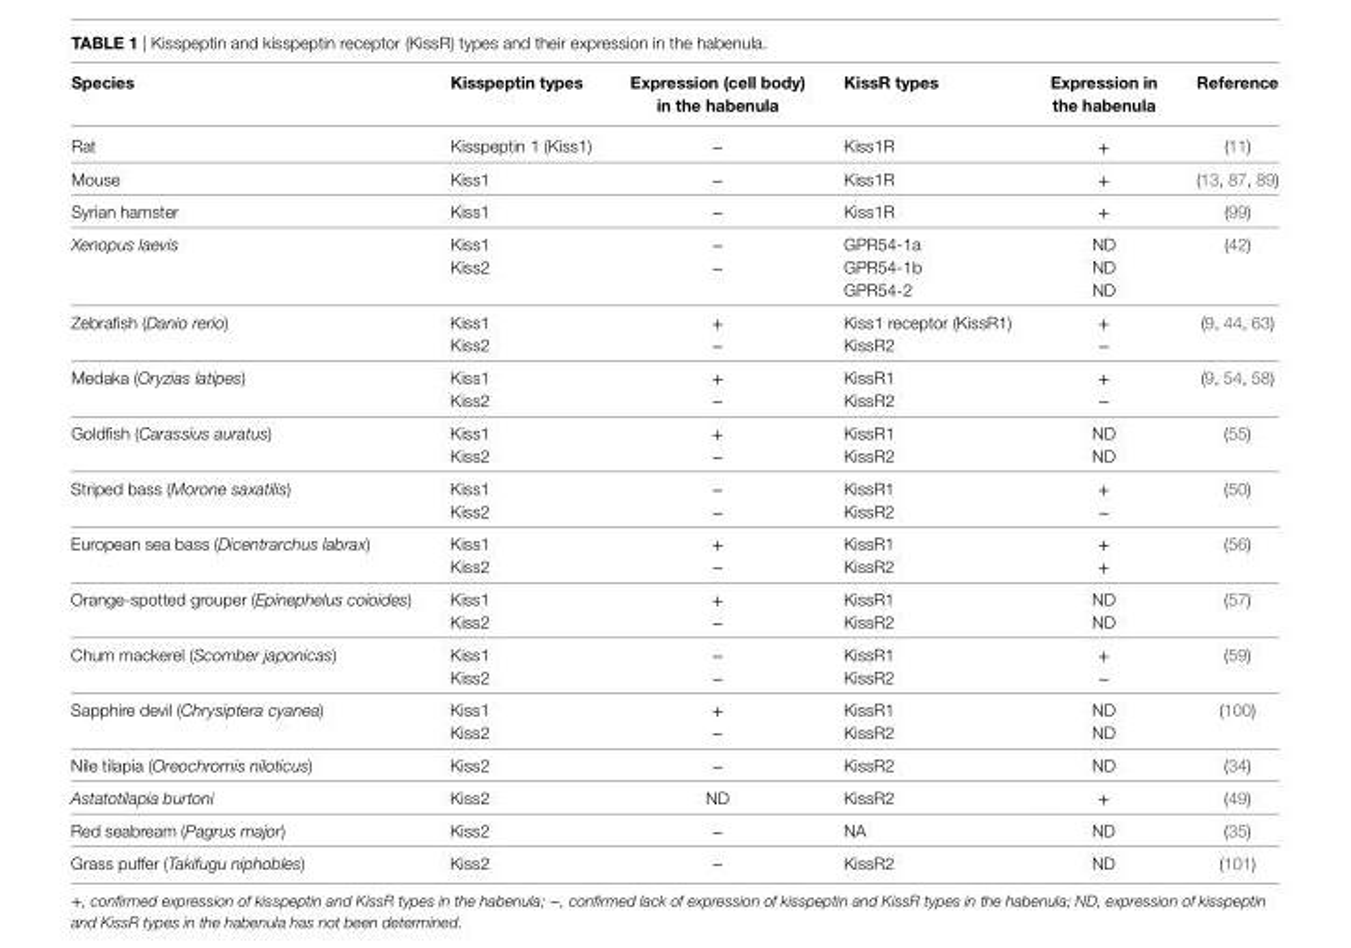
<table><thead><tr><td>Species</td><td>Kisspeptin types</td><td>expression (cell body) in the habenula</td><td>KissR types</td><td>expression in the habenula</td><td>Reference</td></tr></thead><tbody><tr><td>Rat</td><td>Kisspeptin 1 (Kiss1)</td><td>−</td><td>Kiss1R</td><td>+</td><td>(11)</td></tr><tr><td>Mouse</td><td>Kiss1</td><td>−</td><td>Kiss1R</td><td>+</td><td>(13, 87, 89)</td></tr><tr><td>Syrian hamster</td><td>Kiss1</td><td>−</td><td>Kiss1R</td><td>+</td><td>(99)</td></tr><tr><td>Xenopus laevis</td><td>Kiss1 Kiss2</td><td>− −</td><td>GPR541a GPR541b GPR542</td><td>ND ND ND</td><td>(42)</td></tr><tr><td>Zebrafish (Danio rerio)</td><td>Kiss1 Kiss2</td><td>+ −</td><td>Kiss1 receptor (KissR1) KissR2</td><td>+ −</td><td>(9, 44, 63)</td></tr><tr><td>Medaka (Oryzias latipes)</td><td>Kiss1 Kiss2</td><td>+ −</td><td>KissR1 KissR2</td><td>+ −</td><td>(9, 54, 58)</td></tr><tr><td>Goldfish (Carassius auratus)</td><td>Kiss1 Kiss2</td><td>+ −</td><td>KissR1 KissR2</td><td>ND ND</td><td>(55)</td></tr><tr><td>Striped bass (Morone saxatilis)</td><td>Kiss1 Kiss2</td><td>− −</td><td>KissR1 KissR2</td><td>+ −</td><td>(50)</td></tr><tr><td>European sea bass (Dicentrarchus labrax)</td><td>Kiss1 Kiss2</td><td>+ −</td><td>KissR1 KissR2</td><td>+ +</td><td>(56)</td></tr><tr><td>Orangespotted grouper (Epinephelus coioides)</td><td>Kiss1 Kiss2</td><td>+ −</td><td>KissR1 KissR2</td><td>ND ND</td><td>(57)</td></tr><tr><td>Chum mackerel (Scomber japonicas)</td><td>Kiss1 Kiss2</td><td>− −</td><td>KissR1 KissR2</td><td>+ −</td><td>(59)</td></tr><tr><td>Sapphire devil (Chrysiptera cyanea)</td><td>Kiss1 Kiss2</td><td>+ −</td><td>KissR1 KissR2</td><td>ND ND</td><td>(100)</td></tr><tr><td>Nile tilapia (Oreochromis niloticus)</td><td>Kiss2</td><td>−</td><td>KissR2</td><td>ND</td><td>(34)</td></tr><tr><td>Astatotilapia burtoni</td><td>Kiss2</td><td>ND</td><td>KissR2</td><td>+</td><td>(49)</td></tr><tr><td>Red seabream (Pagrus major)</td><td>Kiss2</td><td>−</td><td>NA</td><td>ND</td><td>(35)</td></tr><tr><td>Grass puffer (Takifugu niphobles)</td><td>Kiss2</td><td>−</td><td>KissR2</td><td>ND</td><td>(101)</td></tr></tbody></table>